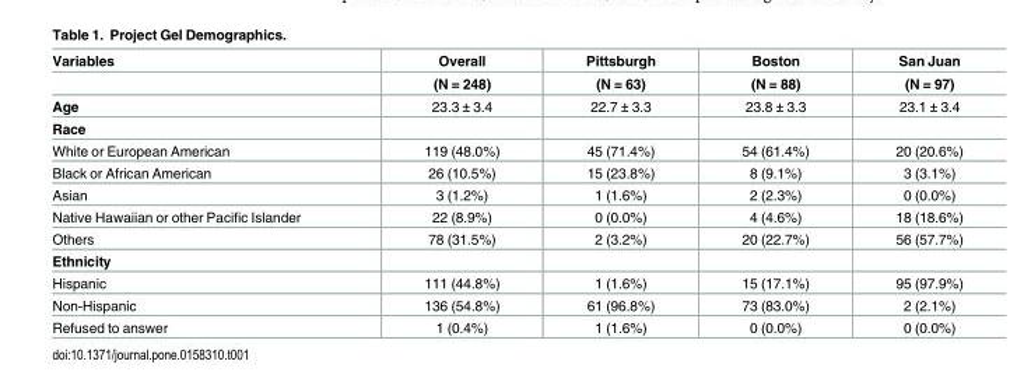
<table><thead><tr><td rowspan="2">Variables</td><td rowspan="2">Overall (N = 248)</td><td rowspan="2">Pittsburgh (N = 63)</td><td rowspan="2">Boston (N = 88)</td><td rowspan="2">San Juan (N = 97)</td></tr><tr></tr></thead><tbody><tr><td>Age</td><td>23.3 ± 3.4</td><td>22.7 ± 3.3</td><td>23.8 ± 3.3</td><td>23.1 ± 3.4</td></tr><tr><td colspan="5">Race</td></tr><tr><td>White or European American</td><td>119 (48.0%)</td><td>45 (71.4%)</td><td>54 (61.4%)</td><td>20 (20.6%)</td></tr><tr><td>Black or African American</td><td>26 (10.5%)</td><td>15 (23.8%)</td><td>8 (9.1%)</td><td>3 (3.1%)</td></tr><tr><td>Asian</td><td>3 (1.2%)</td><td>1 (1.6%)</td><td>2 (2.3%)</td><td>0 (0.0%)</td></tr><tr><td>Native Hawaiian or other Pacific Islander</td><td>22 (8.9%)</td><td>0 (0.0%)</td><td>4 (4.6%)</td><td>18 (18.6%)</td></tr><tr><td>Others</td><td>78 (31.5%)</td><td>2 (3.2%)</td><td>20 (22.7%)</td><td>56 (57.7%)</td></tr><tr><td colspan="5">Ethnicity</td></tr><tr><td>Hispanic</td><td>111 (44.8%)</td><td>1 (1.6%)</td><td>15 (17.1%)</td><td>95 (97.9%)</td></tr><tr><td>Non-Hispanic</td><td>136 (54.8%)</td><td>61 (96.8%)</td><td>73 (83.0%)</td><td>2 (2.1%)</td></tr><tr><td>Refused to answer</td><td>1 (0.4%)</td><td>1 (1.6%)</td><td>0 (0.0%)</td><td>0 (0.0%)</td></tr></tbody></table>